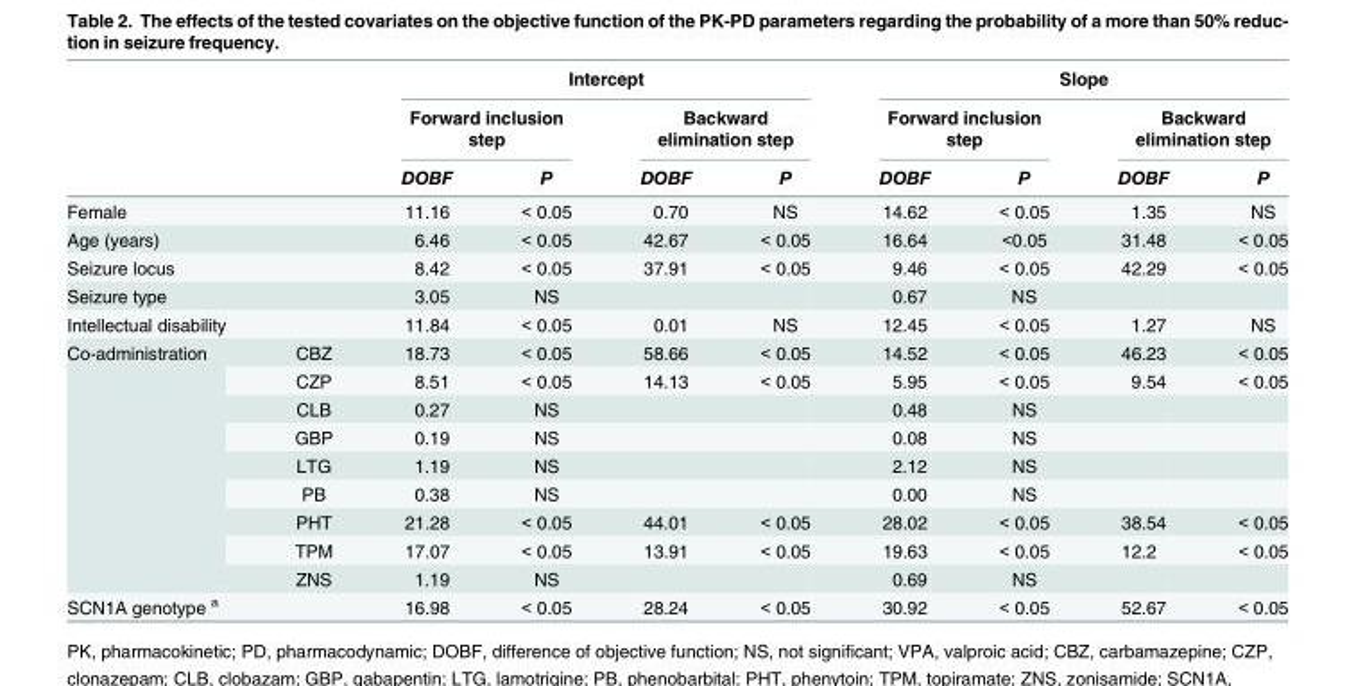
<table><thead><tr><td rowspan="3"></td><td rowspan="3"></td><td colspan="4">Intercept</td><td colspan="4">Slope</td></tr><tr><td colspan="2">Forward inclusion step</td><td colspan="2">Backward elimination step</td><td colspan="2">Forward inclusion step</td><td colspan="2">Backward elimination step</td></tr><tr><td>DOBF</td><td>P</td><td>DOBF</td><td>P</td><td>DOBF</td><td>P</td><td>DOBF</td><td>P</td></tr></thead><tbody><tr><td>Female</td><td></td><td>11.16</td><td>&lt; 0.05</td><td>0.70</td><td>NS</td><td>14.62</td><td>&lt; 0.05</td><td>1.35</td><td>NS</td></tr><tr><td>Age (years)</td><td></td><td>6.46</td><td>&lt; 0.05</td><td>42.67</td><td>&lt; 0.05</td><td>16.64</td><td>&lt;0.05</td><td>31.48</td><td>&lt; 0.05</td></tr><tr><td>Seizure locus</td><td></td><td>8.42</td><td>&lt; 0.05</td><td>37.91</td><td>&lt; 0.05</td><td>9.46</td><td>&lt; 0.05</td><td>42.29</td><td>&lt; 0.05</td></tr><tr><td>Seizure type</td><td></td><td>3.05</td><td>NS</td><td></td><td></td><td>0.67</td><td>NS</td><td></td><td></td></tr><tr><td>Intellectual disability</td><td></td><td>11.84</td><td>&lt; 0.05</td><td>0.01</td><td>NS</td><td>12.45</td><td>&lt; 0.05</td><td>1.27</td><td>NS</td></tr><tr><td rowspan="9">Co-administration</td><td>CBZ</td><td>18.73</td><td>&lt; 0.05</td><td>58.66</td><td>&lt; 0.05</td><td>14.52</td><td>&lt; 0.05</td><td>46.23</td><td>&lt; 0.05</td></tr><tr><td>CZP</td><td>8.51</td><td>&lt; 0.05</td><td>14.13</td><td>&lt; 0.05</td><td>5.95</td><td>&lt; 0.05</td><td>9.54</td><td>&lt; 0.05</td></tr><tr><td>CLB</td><td>0.27</td><td>NS</td><td></td><td></td><td>0.48</td><td>NS</td><td></td><td></td></tr><tr><td>GBP</td><td>0.19</td><td>NS</td><td></td><td></td><td>0.08</td><td>NS</td><td></td><td></td></tr><tr><td>LTG</td><td>1.19</td><td>NS</td><td></td><td></td><td>2.12</td><td>NS</td><td></td><td></td></tr><tr><td>PB</td><td>0.38</td><td>NS</td><td></td><td></td><td>0.00</td><td>NS</td><td></td><td></td></tr><tr><td>PHT</td><td>21.28</td><td>&lt; 0.05</td><td>44.01</td><td>&lt; 0.05</td><td>28.02</td><td>&lt; 0.05</td><td>38.54</td><td>&lt; 0.05</td></tr><tr><td>TPM</td><td>17.07</td><td>&lt; 0.05</td><td>13.91</td><td>&lt; 0.05</td><td>19.63</td><td>&lt; 0.05</td><td>12.2</td><td>&lt; 0.05</td></tr><tr><td>ZNS</td><td>1.19</td><td>NS</td><td></td><td></td><td>0.69</td><td>NS</td><td></td><td></td></tr><tr><td>SCN1A genotype <sup>a</sup></td><td></td><td>16.98</td><td>&lt; 0.05</td><td>28.24</td><td>&lt; 0.05</td><td>30.92</td><td>&lt; 0.05</td><td>52.67</td><td>&lt; 0.05</td></tr></tbody></table>